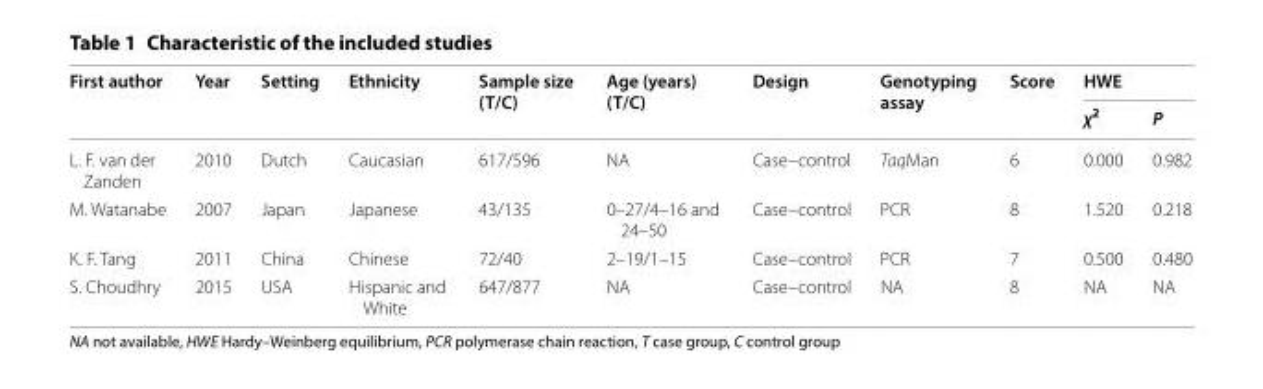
<table><thead><tr><td rowspan="2">First author</td><td rowspan="2">Year</td><td rowspan="2">Setting</td><td rowspan="2">Ethnicity</td><td rowspan="2">Sample size (T/C)</td><td rowspan="2">Age (years) (T/C)</td><td rowspan="2">Design</td><td rowspan="2">Genotyping assay</td><td rowspan="2">Score</td><td colspan="2">HWE</td></tr><tr><td>χ<sup>2</sup></td><td>P</td></tr></thead><tbody><tr><td>L. F. van der Zanden</td><td>2010</td><td>Dutch</td><td>Caucasian</td><td>617/596</td><td>NA</td><td>Case–control</td><td>TaqMan</td><td>6</td><td>0.000</td><td>0.982</td></tr><tr><td>M. Watanabe</td><td>2007</td><td>Japan</td><td>Japanese</td><td>43/135</td><td>0–27/4–16 and 24–50</td><td>Case–control</td><td>PCR</td><td>8</td><td>1.520</td><td>0.218</td></tr><tr><td>K. F. Tang</td><td>2011</td><td>China</td><td>Chinese</td><td>72/40</td><td>2–19/1–15</td><td>Case–control</td><td>PCR</td><td>7</td><td>0.500</td><td>0.480</td></tr><tr><td>S. Choudhry</td><td>2015</td><td>USA</td><td>Hispanic and White</td><td>647/877</td><td>NA</td><td>Case–control</td><td>NA</td><td>8</td><td>NA</td><td>NA</td></tr></tbody></table>